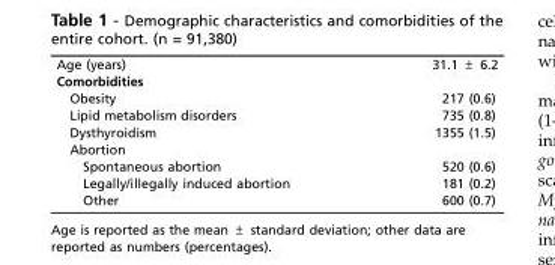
<table><tbody><tr><td>Age (years)</td><td>31.1 ± 6.2</td></tr><tr><td colspan="2">Comorbidities</td></tr><tr><td>Obesity</td><td>217 (0.6)</td></tr><tr><td>Lipid metabolism disorders</td><td>735 (0.8)</td></tr><tr><td>Dysthyroidism</td><td>1355 (1.5)</td></tr><tr><td colspan="2">Abortion</td></tr><tr><td>Spontaneous abortion</td><td>520 (0.6)</td></tr><tr><td>Legally/illegally induced abortion</td><td>181 (0.2)</td></tr><tr><td>Other</td><td>600 (0.7)</td></tr></tbody></table>